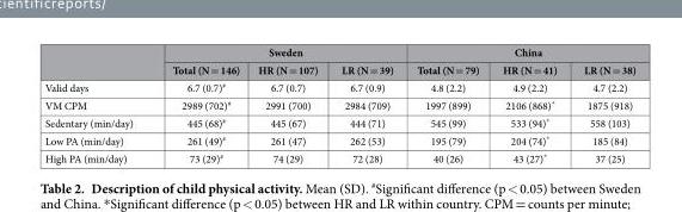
<table><thead><tr><td rowspan="2"></td><td colspan="3">Sweden</td><td colspan="3">China</td></tr><tr><td>Total (N = 146)</td><td>HR (N = 107)</td><td>LR (N = 39)</td><td>Total (N = 79)</td><td>HR (N = 41)</td><td>LR (N = 38)</td></tr></thead><tbody><tr><td>Valid days</td><td>6.7 (0.7)#</td><td>6.7 (0.7)</td><td>6.7 (0.9)</td><td>4.8 (2.2)</td><td>4.9 (2.2)</td><td>4.7 (2.2)</td></tr><tr><td>VM CPM</td><td>2989 (702)#</td><td>2991 (700)</td><td>2984 (709)</td><td>1997 (899)</td><td>2106 (868)*</td><td>1875 (918)</td></tr><tr><td>Sedentary (min/day)</td><td>445 (68)#</td><td>445 (67)</td><td>444 (71)</td><td>545 (99)</td><td>533 (94)*</td><td>558 (103)</td></tr><tr><td>Low PA (min/day)</td><td>261 (49)#</td><td>261 (47)</td><td>262 (53)</td><td>195 (79)</td><td>204 (74)*</td><td>185 (84)</td></tr><tr><td>High PA (min/day)</td><td>73 (29)#</td><td>74 (29)</td><td>72 (28)</td><td>40 (26)</td><td>43 (27)*</td><td>37 (25)</td></tr></tbody></table>